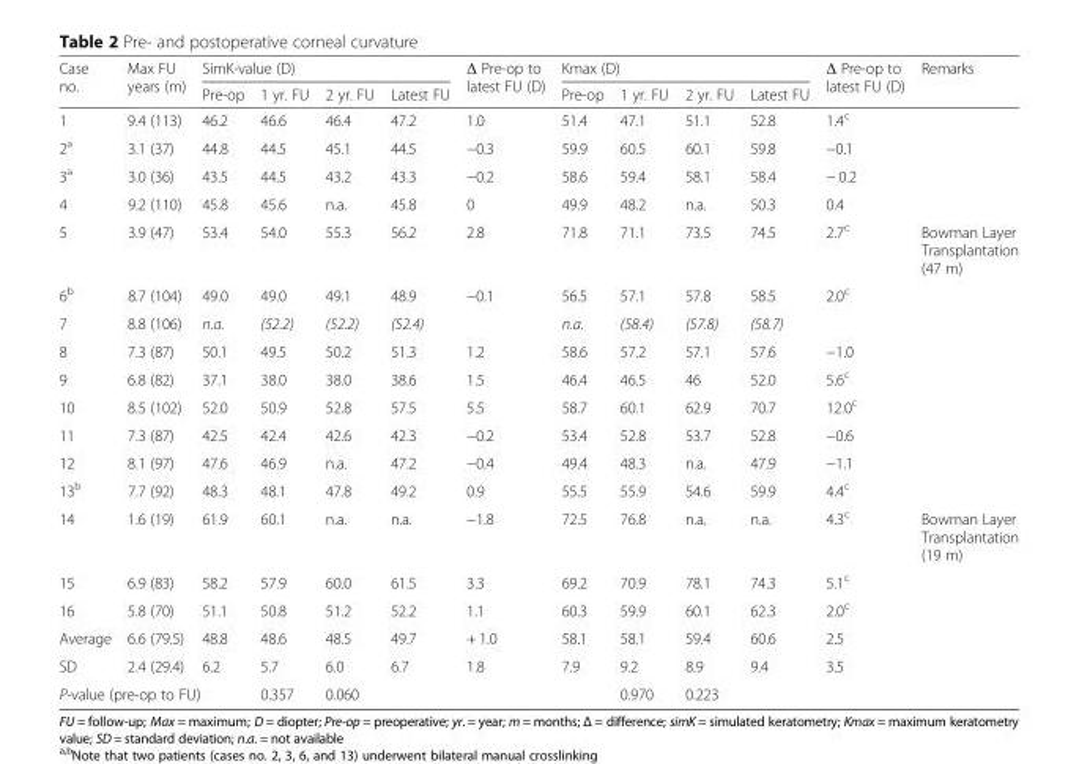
<table><thead><tr><td rowspan="2">Case no.</td><td rowspan="2">Max FU years (m)</td><td colspan="4">SimK-value (D)</td><td rowspan="2">Δ Pre-op to latest FU (D)</td><td colspan="4">Kmax (D)</td><td rowspan="2">Δ Pre-op to latest FU (D)</td><td rowspan="2">Remarks</td></tr><tr><td>Pre-op</td><td>1 yr. FU</td><td>2 yr. FU</td><td>Latest FU</td><td>Pre-op</td><td>1 yr. FU</td><td>2 yr. FU</td><td>Latest FU</td></tr></thead><tbody><tr><td>1</td><td>9.4 (113)</td><td>46.2</td><td>46.6</td><td>46.4</td><td>47.2</td><td>1.0</td><td>51.4</td><td>47.1</td><td>51.1</td><td>52.8</td><td>1.4<sup>c</sup></td><td></td></tr><tr><td>2<sup>a</sup></td><td>3.1 (37)</td><td>44.8</td><td>44.5</td><td>45.1</td><td>44.5</td><td>−0.3</td><td>59.9</td><td>60.5</td><td>60.1</td><td>59.8</td><td>−0.1</td><td></td></tr><tr><td>3<sup>a</sup></td><td>3.0 (36)</td><td>43.5</td><td>44.5</td><td>43.2</td><td>43.3</td><td>−0.2</td><td>58.6</td><td>59.4</td><td>58.1</td><td>58.4</td><td>− 0.2</td><td></td></tr><tr><td>4</td><td>9.2 (110)</td><td>45.8</td><td>45.6</td><td>n.a.</td><td>45.8</td><td>0</td><td>49.9</td><td>48.2</td><td>n.a.</td><td>50.3</td><td>0.4</td><td></td></tr><tr><td>5</td><td>3.9 (47)</td><td>53.4</td><td>54.0</td><td>55.3</td><td>56.2</td><td>2.8</td><td>71.8</td><td>71.1</td><td>73.5</td><td>74.5</td><td>2.7<sup>c</sup></td><td>Bowman Layer Transplantation (47 m)</td></tr><tr><td>6<sup>b</sup></td><td>8.7 (104)</td><td>49.0</td><td>49.0</td><td>49.1</td><td>48.9</td><td>−0.1</td><td>56.5</td><td>57.1</td><td>57.8</td><td>58.5</td><td>2.0<sup>c</sup></td><td></td></tr><tr><td>7</td><td>8.8 (106)</td><td>n.a.</td><td>(52.2)</td><td>(52.2)</td><td>(52.4)</td><td></td><td>n.a.</td><td>(58.4)</td><td>(57.8)</td><td>(58.7)</td><td></td><td></td></tr><tr><td>8</td><td>7.3 (87)</td><td>50.1</td><td>49.5</td><td>50.2</td><td>51.3</td><td>1.2</td><td>58.6</td><td>57.2</td><td>57.1</td><td>57.6</td><td>−1.0</td><td></td></tr><tr><td>9</td><td>6.8 (82)</td><td>37.1</td><td>38.0</td><td>38.0</td><td>38.6</td><td>1.5</td><td>46.4</td><td>46.5</td><td>46</td><td>52.0</td><td>5.6<sup>c</sup></td><td></td></tr><tr><td>10</td><td>8.5 (102)</td><td>52.0</td><td>50.9</td><td>52.8</td><td>57.5</td><td>5.5</td><td>58.7</td><td>60.1</td><td>62.9</td><td>70.7</td><td>12.0<sup>c</sup></td><td></td></tr><tr><td>11</td><td>7.3 (87)</td><td>42.5</td><td>42.4</td><td>42.6</td><td>42.3</td><td>−0.2</td><td>53.4</td><td>52.8</td><td>53.7</td><td>52.8</td><td>−0.6</td><td></td></tr><tr><td>12</td><td>8.1 (97)</td><td>47.6</td><td>46.9</td><td>n.a.</td><td>47.2</td><td>−0.4</td><td>49.4</td><td>48.3</td><td>n.a.</td><td>47.9</td><td>−1.1</td><td></td></tr><tr><td>13<sup>b</sup></td><td>7.7 (92)</td><td>48.3</td><td>48.1</td><td>47.8</td><td>49.2</td><td>0.9</td><td>55.5</td><td>55.9</td><td>54.6</td><td>59.9</td><td>4.4<sup>c</sup></td><td></td></tr><tr><td>14</td><td>1.6 (19)</td><td>61.9</td><td>60.1</td><td>n.a.</td><td>n.a.</td><td>−1.8</td><td>72.5</td><td>76.8</td><td>n.a.</td><td>n.a.</td><td>4.3<sup>c</sup></td><td>Bowman Layer Transplantation (19 m)</td></tr><tr><td>15</td><td>6.9 (83)</td><td>58.2</td><td>57.9</td><td>60.0</td><td>61.5</td><td>3.3</td><td>69.2</td><td>70.9</td><td>78.1</td><td>74.3</td><td>5.1<sup>c</sup></td><td></td></tr><tr><td>16</td><td>5.8 (70)</td><td>51.1</td><td>50.8</td><td>51.2</td><td>52.2</td><td>1.1</td><td>60.3</td><td>59.9</td><td>60.1</td><td>62.3</td><td>2.0<sup>c</sup></td><td></td></tr><tr><td>Average</td><td>6.6 (79.5)</td><td>48.8</td><td>48.6</td><td>48.5</td><td>49.7</td><td>+ 1.0</td><td>58.1</td><td>58.1</td><td>59.4</td><td>60.6</td><td>2.5</td><td></td></tr><tr><td>SD</td><td>2.4 (29.4)</td><td>6.2</td><td>5.7</td><td>6.0</td><td>6.7</td><td>1.8</td><td>7.9</td><td>9.2</td><td>8.9</td><td>9.4</td><td>3.5</td><td></td></tr><tr><td colspan="3">P-value (pre-op to FU)</td><td>0.357</td><td>0.060</td><td></td><td></td><td></td><td>0.970</td><td>0.223</td><td></td><td></td><td></td></tr></tbody></table>